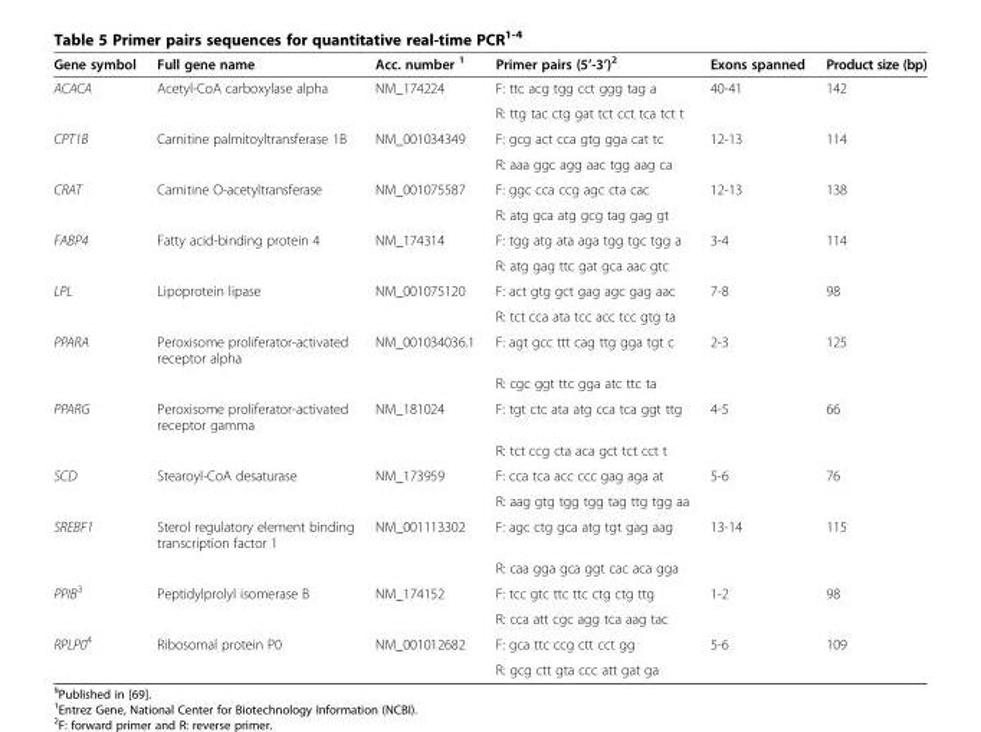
<table><thead><tr><td>Gene symbol</td><td>Full gene name</td><td>Acc. number <sup>1</sup></td><td>Primer pairs (5’-3’)<sup>2</sup></td><td>Exons spanned</td><td>Product size (bp)</td></tr></thead><tbody><tr><td rowspan="2">ACACA</td><td>Acetyl-CoA carboxylase alpha</td><td>NM_174224</td><td>F: ttc acg tgg cct ggg tag a</td><td>40-41</td><td>142</td></tr><tr><td></td><td></td><td>R: ttg tac ctg gat tct cct tca tct t</td><td></td><td></td></tr><tr><td rowspan="2">CPT1B</td><td>Carnitine palmitoyltransferase 1B</td><td>NM_001034349</td><td>F: gcg act cca gtg gga cat tc</td><td>12-13</td><td>114</td></tr><tr><td></td><td></td><td>R: aaa ggc agg aac tgg aag ca</td><td></td><td></td></tr><tr><td rowspan="2">CRAT</td><td>Carnitine O-acetyltransferase</td><td>NM_001075587</td><td>F: ggc cca ccg agc cta cac</td><td>12-13</td><td>138</td></tr><tr><td></td><td></td><td>R: atg gca atg gcg tag gag gt</td><td></td><td></td></tr><tr><td rowspan="2">FABP4</td><td>Fatty acid-binding protein 4</td><td>NM_174314</td><td>F: tgg atg ata aga tgg tgc tgg a</td><td>3-4</td><td>114</td></tr><tr><td></td><td></td><td>R: atg gag ttc gat gca aac gtc</td><td></td><td></td></tr><tr><td rowspan="2">LPL</td><td>Lipoprotein lipase</td><td>NM_001075120</td><td>F: act gtg gct gag agc gag aac</td><td>7-8</td><td>98</td></tr><tr><td></td><td></td><td>R: tct cca ata tcc acc tcc gtg ta</td><td></td><td></td></tr><tr><td rowspan="2">PPARA</td><td>Peroxisome proliferator-activated receptor alpha</td><td>NM_001034036.1</td><td>F: agt gcc ttt cag ttg gga tgt c</td><td>2-3</td><td>125</td></tr><tr><td></td><td></td><td>R: cgc ggt ttc gga atc ttc ta</td><td></td><td></td></tr><tr><td rowspan="2">PPARG</td><td>Peroxisome proliferator-activated receptor gamma</td><td>NM_181024</td><td>F: tgt ctc ata atg cca tca ggt ttg</td><td>4-5</td><td>66</td></tr><tr><td></td><td></td><td>R: tct ccg cta aca gct tct cct t</td><td></td><td></td></tr><tr><td rowspan="2">SCD</td><td>Stearoyl-CoA desaturase</td><td>NM_173959</td><td>F: cca tca acc ccc gag aga at</td><td>5-6</td><td>76</td></tr><tr><td></td><td></td><td>R: aag gtg tgg tgg tag ttg tgg aa</td><td></td><td></td></tr><tr><td rowspan="2">SREBF1</td><td>Sterol regulatory element binding transcription factor 1</td><td>NM_001113302</td><td>F: agc ctg gca atg tgt gag aag</td><td>13-14</td><td>115</td></tr><tr><td></td><td></td><td>R: caa gga gca ggt cac aca gga</td><td></td><td></td></tr><tr><td rowspan="2">PPIB<sup>3</sup></td><td rowspan="2">Peptidylprolyl isomerase B</td><td rowspan="2">NM_174152</td><td>F: tcc gtc ttc ttc ctg ctg ttg</td><td rowspan="2">1-2</td><td rowspan="2">98</td></tr><tr><td>R: cca att cgc agg tca aag tac</td></tr><tr><td rowspan="2">RPLP0<sup>4</sup></td><td>Ribosomal protein P0</td><td>NM_001012682</td><td>F: gca ttc ccg ctt cct gg</td><td>5-6</td><td>109</td></tr><tr><td></td><td></td><td>R: gcg ctt gta ccc att gat ga</td><td></td><td></td></tr></tbody></table>